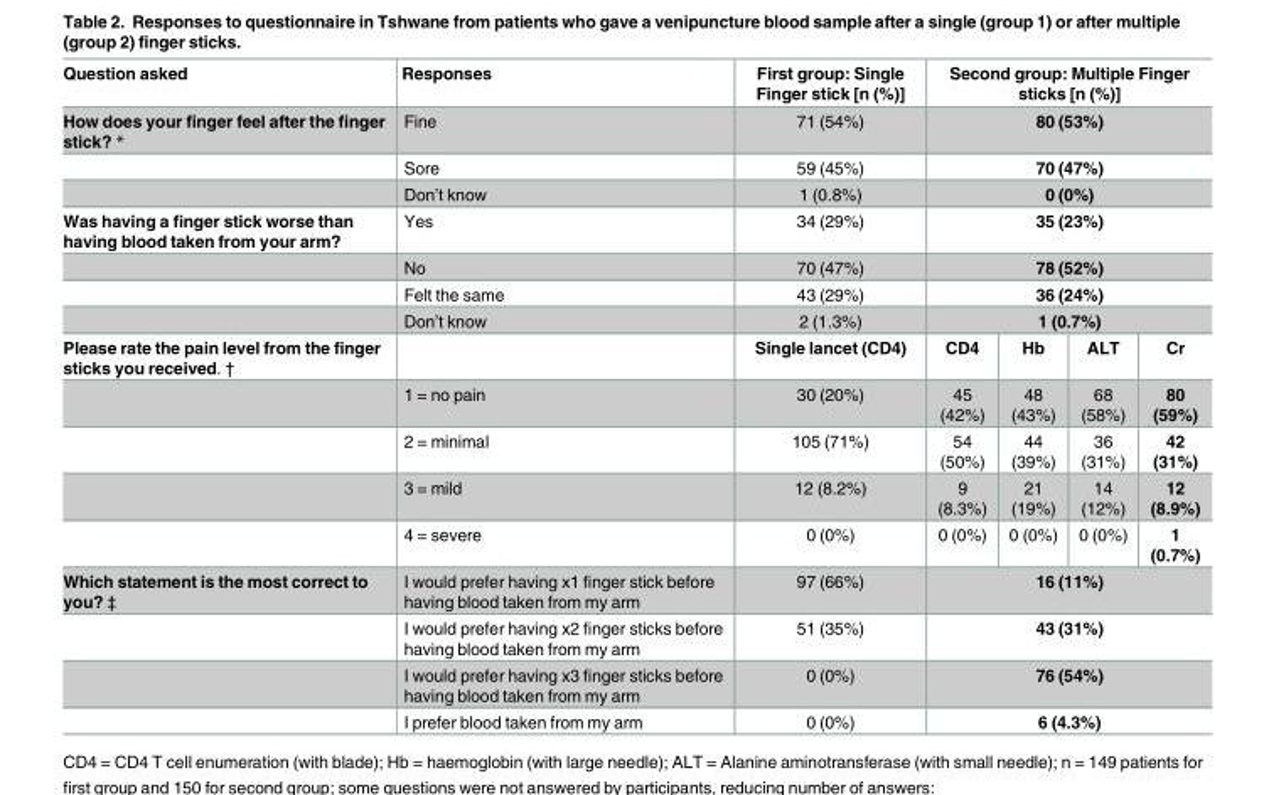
<table><thead><tr><td>Question asked</td><td>Responses</td><td>First group: Single Finger stick [n (%)]</td><td colspan="4">Second group: Multiple Finger sticks [n (%)]</td></tr></thead><tbody><tr><td rowspan="3">How does your finger feel after the finger stick? *</td><td>Fine</td><td>71 (54%)</td><td colspan="4">80 (53%)</td></tr><tr><td>Sore</td><td>59 (45%)</td><td colspan="4">70 (47%)</td></tr><tr><td>Don’t know</td><td>1 (0.8%)</td><td colspan="4">0 (0%)</td></tr><tr><td rowspan="4">Was having a finger stick worse than having blood taken from your arm?</td><td>Yes</td><td>34 (29%)</td><td colspan="4">35 (23%)</td></tr><tr><td>No</td><td>70 (47%)</td><td colspan="4">78 (52%)</td></tr><tr><td>Felt the same</td><td>43 (29%)</td><td colspan="4">36 (24%)</td></tr><tr><td>Don’t know</td><td>2 (1.3%)</td><td colspan="4">1 (0.7%)</td></tr><tr><td rowspan="5">Please rate the pain level from the finger sticks you received. †</td><td></td><td>Single lancet (CD4)</td><td>CD4</td><td>Hb</td><td>ALT</td><td>Cr</td></tr><tr><td>1 = no pain</td><td>30 (20%)</td><td>45 (42%)</td><td>48 (43%)</td><td>68 (58%)</td><td>80 (59%)</td></tr><tr><td>2 = minimal</td><td>105 (71%)</td><td>54 (50%)</td><td>44 (39%)</td><td>36 (31%)</td><td>42 (31%)</td></tr><tr><td>3 = mild</td><td>12 (8.2%)</td><td>9 (8.3%)</td><td>21 (19%)</td><td>14 (12%)</td><td>12 (8.9%)</td></tr><tr><td>4 = severe</td><td>0 (0%)</td><td>0 (0%)</td><td>0 (0%)</td><td>0 (0%)</td><td>1 (0.7%)</td></tr><tr><td rowspan="4">Which statement is the most correct to you? ‡</td><td>I would prefer having x1 finger stick before having blood taken from my arm</td><td>97 (66%)</td><td colspan="4">16 (11%)</td></tr><tr><td>I would prefer having x2 finger sticks before having blood taken from my arm</td><td>51 (35%)</td><td colspan="4">43 (31%)</td></tr><tr><td>I would prefer having x3 finger sticks before having blood taken from my arm</td><td>0 (0%)</td><td colspan="4">76 (54%)</td></tr><tr><td>I prefer blood taken from my arm</td><td>0 (0%)</td><td colspan="4">6 (4.3%)</td></tr></tbody></table>